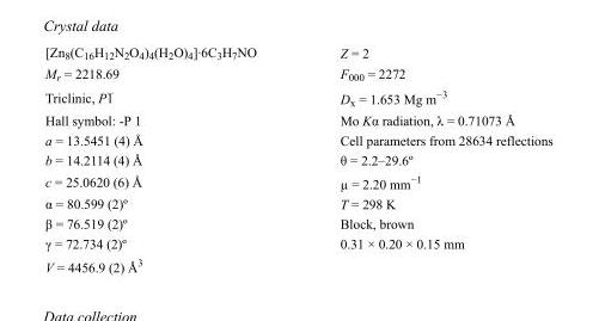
<table><tbody><tr><td>[Zn<sub>8</sub>(C<sub>16</sub>H<sub>12</sub>N<sub>2</sub>O<sub>4</sub>)<sub>4</sub>(H<sub>2</sub>O)<sub>4</sub>]·6C<sub>3</sub>H<sub>7</sub>NO</td><td>Z = 2</td></tr><tr><td>M<sub>r</sub> = 2218.69</td><td>F000 = 2272</td></tr><tr><td>Triclinic, P1</td><td>D<sub>x</sub> = 1.653 Mg m<sup>−3</sup></td></tr><tr><td>Hall symbol: -P 1</td><td>Mo Kα radiation, λ = 0.71073 Å</td></tr><tr><td>a = 13.5451 (4) Å</td><td>Cell parameters from 28634 reflections</td></tr><tr><td>b = 14.2114 (4) Å</td><td>θ = 2.2–29.6º</td></tr><tr><td>c = 25.0620 (6) Å</td><td>µ = 2.20 mm<sup>−1</sup></td></tr><tr><td>α = 80.599 (2)º</td><td>T = 298 K</td></tr><tr><td>β = 76.519 (2)º</td><td>Block, brown</td></tr><tr><td>γ = 72.734 (2)º</td><td>0.31 × 0.20 × 0.15 mm</td></tr><tr><td>V = 4456.9 (2) Å<sup>3</sup></td><td></td></tr></tbody></table>